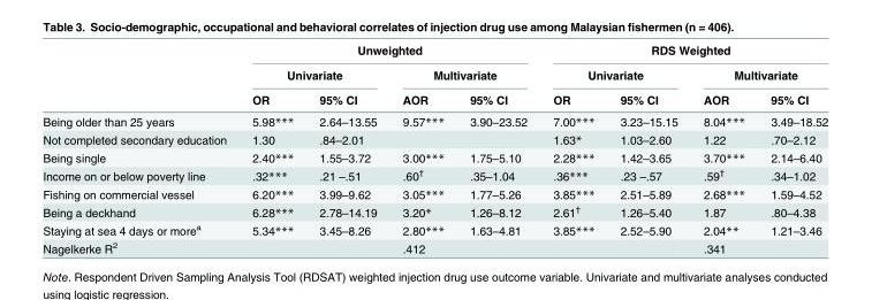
<table><thead><tr><td rowspan="3"></td><td colspan="4">Unweighted</td><td colspan="4">RDS Weighted</td></tr><tr><td colspan="2">Univariate</td><td colspan="2">Multivariate</td><td colspan="2">Univariate</td><td colspan="2">Multivariate</td></tr><tr><td>OR</td><td>95% CI</td><td>AOR</td><td>95% CI</td><td>OR</td><td>95% CI</td><td>AOR</td><td>95% CI</td></tr></thead><tbody><tr><td>Being older than 25 years</td><td>5.98***</td><td>2.64–13.55</td><td>9.57***</td><td>3.90–23.52</td><td>7.00***</td><td>3.23–15.15</td><td>8.04***</td><td>3.49–18.52</td></tr><tr><td>Not completed secondary education</td><td>1.30</td><td>.84–2.01</td><td></td><td></td><td>1.63*</td><td>1.03–2.60</td><td>1.22</td><td>.70–2.12</td></tr><tr><td>Being single</td><td>2.40***</td><td>1.55–3.72</td><td>3.00***</td><td>1.75–5.10</td><td>2.28***</td><td>1.42–3.65</td><td>3.70***</td><td>2.14–6.40</td></tr><tr><td>Income on or below poverty line</td><td>.32***</td><td>.21 –.51</td><td>.60<sup>†</sup></td><td>.35–1.04</td><td>.36***</td><td>.23 –.57</td><td>.59<sup>†</sup></td><td>.34–1.02</td></tr><tr><td>Fishing on commercial vessel</td><td>6.20***</td><td>3.99–9.62</td><td>3.05***</td><td>1.77–5.26</td><td>3.85***</td><td>2.51–5.89</td><td>2.68***</td><td>1.59–4.52</td></tr><tr><td>Being a deckhand</td><td>6.28***</td><td>2.78–14.19</td><td>3.20*</td><td>1.26–8.12</td><td>2.61<sup>†</sup></td><td>1.26–5.40</td><td>1.87</td><td>.80–4.38</td></tr><tr><td>Staying at sea 4 days or more<sup>a</sup></td><td>5.34***</td><td>3.45–8.26</td><td>2.80***</td><td>1.63–4.81</td><td>3.85***</td><td>2.52–5.90</td><td>2.04**</td><td>1.21–3.46</td></tr><tr><td>Nagelkerke R<sup>2</sup></td><td></td><td></td><td colspan="2">.412</td><td></td><td></td><td colspan="2">.341</td></tr></tbody></table>